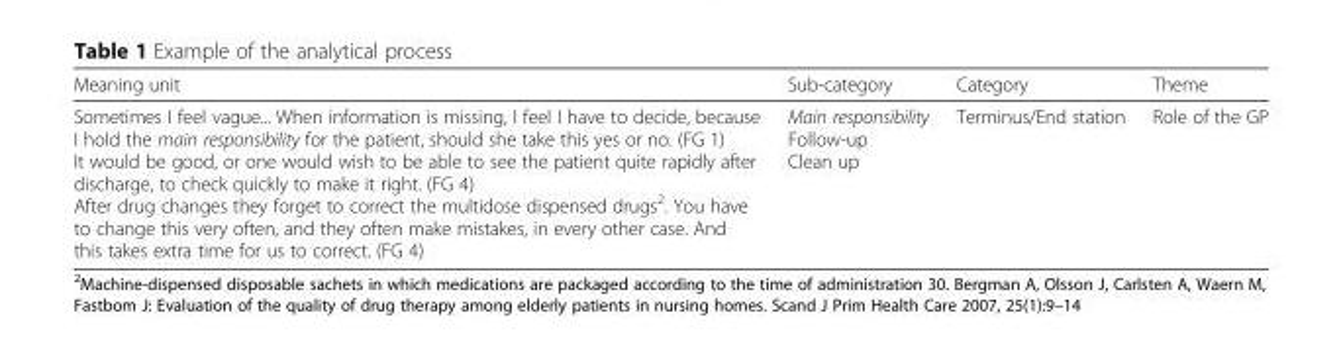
<table><thead><tr><td>Meaning unit</td><td>Sub-category</td><td>Category</td><td>Theme</td></tr></thead><tbody><tr><td>Sometimes I feel vague... When information is missing, I feel I have to decide, because I hold the main responsibility for the patient, should she take this yes or no. (FG 1) It would be good, or one would wish to be able to see the patient quite rapidly after discharge, to check quickly to make it right. (FG 4) After drug changes they forget to correct the multidose dispensed drugs<sup>2</sup>. You have to change this very often, and they often make mistakes, in every other case. And this takes extra time for us to correct. (FG 4)</td><td>Main responsibility Follow-up Clean up</td><td>Terminus/End station</td><td>Role of the GP</td></tr></tbody></table>